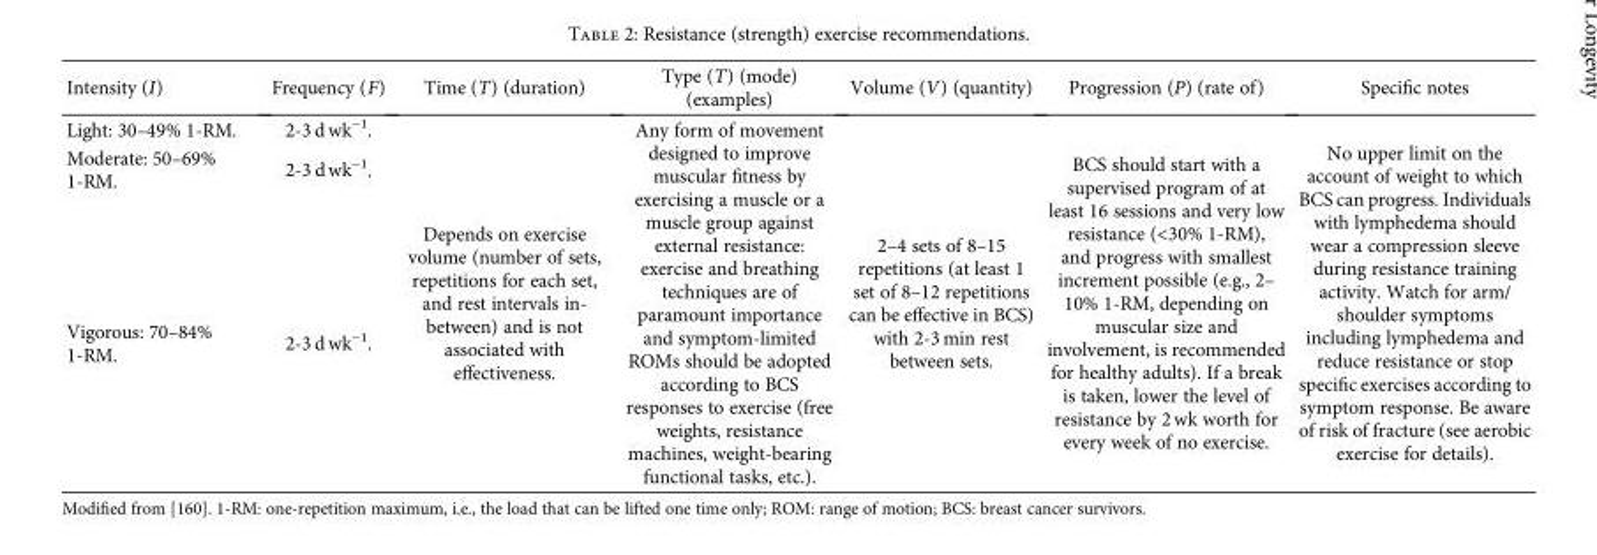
<table><thead><tr><td>Intensity (I)</td><td>Frequency (F)</td><td>Time (T) (duration)</td><td>Type (T) (mode) (examples)</td><td>Volume (V) (quantity)</td><td>Progression (P) (rate of)</td><td>Specific notes</td></tr></thead><tbody><tr><td>Light: 30–49% 1-RM.</td><td>2-3 d wk<sup>−1</sup>.</td><td rowspan="3">Depends on exercise volume (number of sets, repetitions for each set, and rest intervals in- between) and is not associated with effectiveness.</td><td rowspan="3">Any form of movement designed to improve muscular fitness by exercising a muscle or a muscle group against external resistance: exercise and breathing techniques are of paramount importance and symptom-limited ROMs should be adopted according to BCS responses to exercise (free weights, resistance machines, weight-bearing functional tasks, etc.).</td><td rowspan="3">2–4 sets of 8–15 repetitions (at least 1 set of 8–12 repetitions can be effective in BCS) with 2-3 min rest between sets.</td><td rowspan="3">BCS should start with a supervised program of at least 16 sessions and very low resistance (&lt;30% 1-RM), and progress with smallest increment possible (e.g., 2– 10% 1-RM, depending on muscular size and involvement, is recommended for healthy adults). If a break is taken, lower the level of resistance by 2 wk worth for every week of no exercise.</td><td rowspan="3">No upper limit on the account of weight to which BCS can progress. Individuals with lymphedema should wear a compression sleeve during resistance training activity. Watch for arm/ shoulder symptoms including lymphedema and reduce resistance or stop specific exercises according to symptom response. Be aware of risk of fracture (see aerobic exercise for details).</td></tr><tr><td>Moderate: 50–69% 1-RM.</td><td>2-3 d wk<sup>−1</sup>.</td></tr><tr><td>Vigorous: 70–84% 1-RM.</td><td>2-3 d wk<sup>−1</sup>.</td></tr></tbody></table>